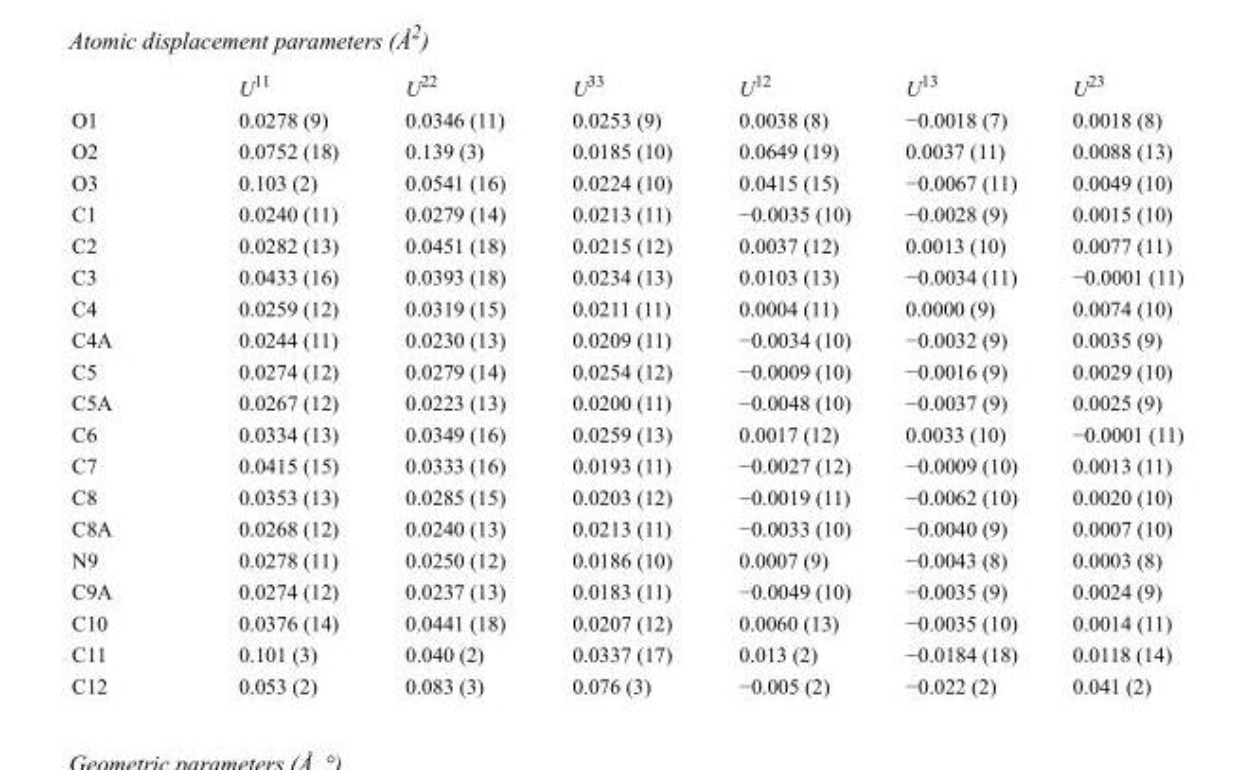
<table><thead><tr><td></td><td>U<sup>11</sup></td><td>U<sup>22</sup></td><td>U<sup>33</sup></td><td>U<sup>12</sup></td><td>U<sup>13</sup></td><td>U<sup>23</sup></td></tr></thead><tbody><tr><td>O1</td><td>0.0278 (9)</td><td>0.0346 (11)</td><td>0.0253 (9)</td><td>0.0038 (8)</td><td>−0.0018 (7)</td><td>0.0018 (8)</td></tr><tr><td>O2</td><td>0.0752 (18)</td><td>0.139 (3)</td><td>0.0185 (10)</td><td>0.0649 (19)</td><td>0.0037 (11)</td><td>0.0088 (13)</td></tr><tr><td>O3</td><td>0.103 (2)</td><td>0.0541 (16)</td><td>0.0224 (10)</td><td>0.0415 (15)</td><td>−0.0067 (11)</td><td>0.0049 (10)</td></tr><tr><td>C1</td><td>0.0240 (11)</td><td>0.0279 (14)</td><td>0.0213 (11)</td><td>−0.0035 (10)</td><td>−0.0028 (9)</td><td>0.0015 (10)</td></tr><tr><td>C2</td><td>0.0282 (13)</td><td>0.0451 (18)</td><td>0.0215 (12)</td><td>0.0037 (12)</td><td>0.0013 (10)</td><td>0.0077 (11)</td></tr><tr><td>C3</td><td>0.0433 (16)</td><td>0.0393 (18)</td><td>0.0234 (13)</td><td>0.0103 (13)</td><td>−0.0034 (11)</td><td>−0.0001 (11)</td></tr><tr><td>C4</td><td>0.0259 (12)</td><td>0.0319 (15)</td><td>0.0211 (11)</td><td>0.0004 (11)</td><td>0.0000 (9)</td><td>0.0074 (10)</td></tr><tr><td>C4A</td><td>0.0244 (11)</td><td>0.0230 (13)</td><td>0.0209 (11)</td><td>−0.0034 (10)</td><td>−0.0032 (9)</td><td>0.0035 (9)</td></tr><tr><td>C5</td><td>0.0274 (12)</td><td>0.0279 (14)</td><td>0.0254 (12)</td><td>−0.0009 (10)</td><td>−0.0016 (9)</td><td>0.0029 (10)</td></tr><tr><td>C5A</td><td>0.0267 (12)</td><td>0.0223 (13)</td><td>0.0200 (11)</td><td>−0.0048 (10)</td><td>−0.0037 (9)</td><td>0.0025 (9)</td></tr><tr><td>C6</td><td>0.0334 (13)</td><td>0.0349 (16)</td><td>0.0259 (13)</td><td>0.0017 (12)</td><td>0.0033 (10)</td><td>−0.0001 (11)</td></tr><tr><td>C7</td><td>0.0415 (15)</td><td>0.0333 (16)</td><td>0.0193 (11)</td><td>−0.0027 (12)</td><td>−0.0009 (10)</td><td>0.0013 (11)</td></tr><tr><td>C8</td><td>0.0353 (13)</td><td>0.0285 (15)</td><td>0.0203 (12)</td><td>−0.0019 (11)</td><td>−0.0062 (10)</td><td>0.0020 (10)</td></tr><tr><td>C8A</td><td>0.0268 (12)</td><td>0.0240 (13)</td><td>0.0213 (11)</td><td>−0.0033 (10)</td><td>−0.0040 (9)</td><td>0.0007 (10)</td></tr><tr><td>N9</td><td>0.0278 (11)</td><td>0.0250 (12)</td><td>0.0186 (10)</td><td>0.0007 (9)</td><td>−0.0043 (8)</td><td>0.0003 (8)</td></tr><tr><td>C9A</td><td>0.0274 (12)</td><td>0.0237 (13)</td><td>0.0183 (11)</td><td>−0.0049 (10)</td><td>−0.0035 (9)</td><td>0.0024 (9)</td></tr><tr><td>C10</td><td>0.0376 (14)</td><td>0.0441 (18)</td><td>0.0207 (12)</td><td>0.0060 (13)</td><td>−0.0035 (10)</td><td>0.0014 (11)</td></tr><tr><td>C11</td><td>0.101 (3)</td><td>0.040 (2)</td><td>0.0337 (17)</td><td>0.013 (2)</td><td>−0.0184 (18)</td><td>0.0118 (14)</td></tr><tr><td>C12</td><td>0.053 (2)</td><td>0.083 (3)</td><td>0.076 (3)</td><td>−0.005 (2)</td><td>−0.022 (2)</td><td>0.041 (2)</td></tr></tbody></table>